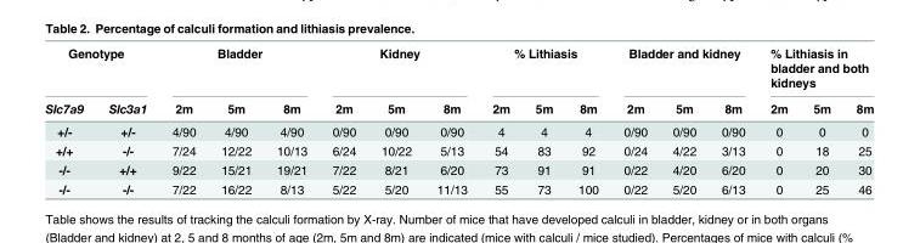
<table><thead><tr><td colspan="2">Genotype</td><td colspan="3">Bladder</td><td colspan="3">Kidney</td><td colspan="3">% Lithiasis</td><td colspan="3">Bladder and kidney</td><td colspan="3">% Lithiasis in bladder and both kidneys</td></tr><tr><td>Slc7a9</td><td>Slc3a1</td><td>2m</td><td>5m</td><td>8m</td><td>2m</td><td>5m</td><td>8m</td><td>2m</td><td>5m</td><td>8m</td><td>2m</td><td>5m</td><td>8m</td><td>2m</td><td>5m</td><td>8m</td></tr></thead><tbody><tr><td>+/-</td><td>+/-</td><td>4/90</td><td>4/90</td><td>4/90</td><td>0/90</td><td>0/90</td><td>0/90</td><td>4</td><td>4</td><td>4</td><td>0/90</td><td>0/90</td><td>0/90</td><td>0</td><td>0</td><td>0</td></tr><tr><td>+/+</td><td>-/-</td><td>7/24</td><td>12/22</td><td>10/13</td><td>6/24</td><td>10/22</td><td>5/13</td><td>54</td><td>83</td><td>92</td><td>0/24</td><td>4/22</td><td>3/13</td><td>0</td><td>18</td><td>25</td></tr><tr><td>-/-</td><td>+/+</td><td>9/22</td><td>15/21</td><td>19/21</td><td>7/22</td><td>8/21</td><td>6/20</td><td>73</td><td>91</td><td>91</td><td>0/22</td><td>4/20</td><td>6/20</td><td>0</td><td>20</td><td>30</td></tr><tr><td>-/-</td><td>-/-</td><td>7/22</td><td>16/22</td><td>8/13</td><td>5/22</td><td>5/20</td><td>11/13</td><td>55</td><td>73</td><td>100</td><td>0/22</td><td>5/20</td><td>6/13</td><td>0</td><td>25</td><td>46</td></tr></tbody></table>